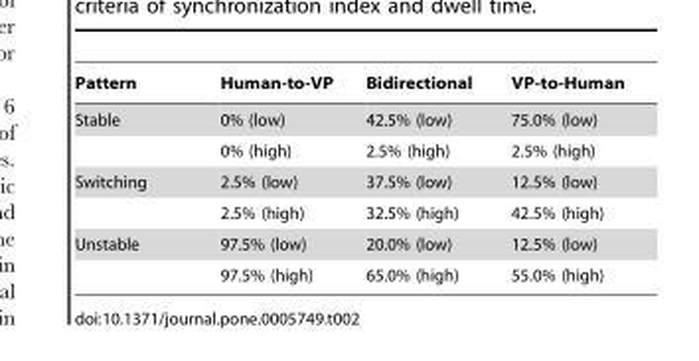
<table><thead><tr><td>Pattern</td><td>Human-to-VP</td><td>Bidirectional</td><td>VP-to-Human</td></tr></thead><tbody><tr><td rowspan="2">Stable</td><td>0% (low)</td><td>42.5% (low)</td><td>75.0% (low)</td></tr><tr><td>0% (high)</td><td>2.5% (high)</td><td>2.5% (high)</td></tr><tr><td rowspan="2">Switching</td><td>2.5% (low)</td><td>37.5% (low)</td><td>12.5% (low)</td></tr><tr><td>2.5% (high)</td><td>32.5% (high)</td><td>42.5% (high)</td></tr><tr><td rowspan="2">Unstable</td><td>97.5% (low)</td><td>20.0% (low)</td><td>12.5% (low)</td></tr><tr><td>97.5% (high)</td><td>65.0% (high)</td><td>55.0% (high)</td></tr></tbody></table>